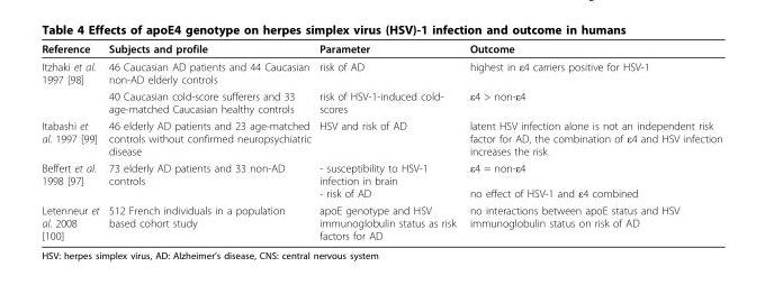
<table><thead><tr><td>Reference</td><td>Subjects and profile</td><td>Parameter</td><td>Outcome</td></tr></thead><tbody><tr><td rowspan="2">Itzhaki et al. 1997 [98]</td><td>46 Caucasian AD patients and 44 Caucasian non-AD elderly controls</td><td>risk of AD</td><td>highest in ε4 carriers positive for HSV-1</td></tr><tr><td>40 Caucasian cold-score sufferers and 33 age-matched Caucasian healthy controls</td><td>risk of HSV-1-induced cold- scores</td><td>ε4 &gt; non-ε4</td></tr><tr><td>Itabashi et al. 1997 [99]</td><td>46 elderly AD patients and 23 age-matched controls without confirmed neuropsychiatric disease</td><td>HSV and risk of AD</td><td>latent HSV infection alone is not an independent risk factor for AD, the combination of ε4 and HSV infection increases the risk</td></tr><tr><td>Beffert et al. 1998 [97]</td><td>73 elderly AD patients and 33 non-AD controls</td><td>- susceptibility to HSV-1 infection in brain - risk of AD</td><td>ε4 = non-ε4 no effect of HSV-1 and ε4 combined</td></tr><tr><td>Letenneur et al. 2008 [100]</td><td>512 French individuals in a population based cohort study</td><td>apoE genotype and HSV immunoglobulin status as risk factors for AD</td><td>no interactions between apoE status and HSV immunoglobulin status on risk of AD</td></tr></tbody></table>